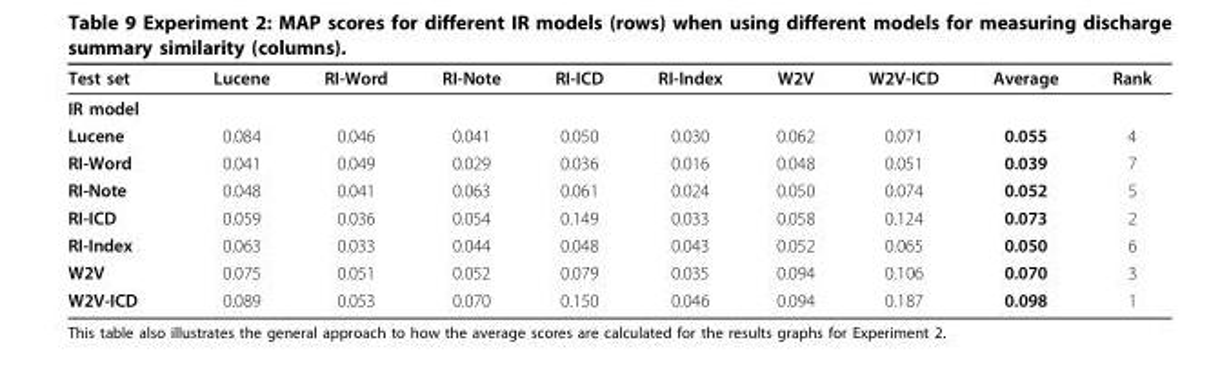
<table><thead><tr><td>Test set</td><td>Lucene</td><td>RI-Word</td><td>RI-Note</td><td>RI-ICD</td><td>RI-Index</td><td>W2V</td><td>W2V-ICD</td><td>Average</td><td>Rank</td></tr></thead><tbody><tr><td colspan="10">IR model</td></tr><tr><td>Lucene</td><td>0.084</td><td>0.046</td><td>0.041</td><td>0.050</td><td>0.030</td><td>0.062</td><td>0.071</td><td>0.055</td><td>4</td></tr><tr><td>RI-Word</td><td>0.041</td><td>0.049</td><td>0.029</td><td>0.036</td><td>0.016</td><td>0.048</td><td>0.051</td><td>0.039</td><td>7</td></tr><tr><td>RI-Note</td><td>0.048</td><td>0.041</td><td>0.063</td><td>0.061</td><td>0.024</td><td>0.050</td><td>0.074</td><td>0.052</td><td>5</td></tr><tr><td>RI-ICD</td><td>0.059</td><td>0.036</td><td>0.054</td><td>0.149</td><td>0.033</td><td>0.058</td><td>0.124</td><td>0.073</td><td>2</td></tr><tr><td>RI-Index</td><td>0.063</td><td>0.033</td><td>0.044</td><td>0.048</td><td>0.043</td><td>0.052</td><td>0.065</td><td>0.050</td><td>6</td></tr><tr><td>W2V</td><td>0.075</td><td>0.051</td><td>0.052</td><td>0.079</td><td>0.035</td><td>0.094</td><td>0.106</td><td>0.070</td><td>3</td></tr><tr><td>W2V-ICD</td><td>0.089</td><td>0.053</td><td>0.070</td><td>0.150</td><td>0.046</td><td>0.094</td><td>0.187</td><td>0.098</td><td>1</td></tr></tbody></table>